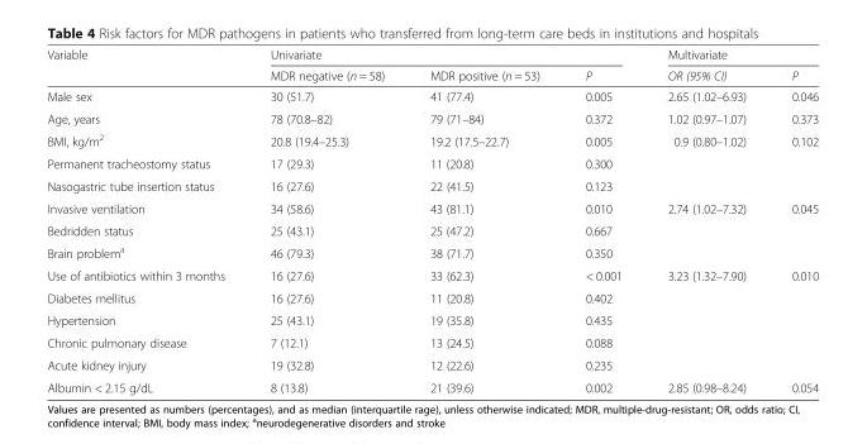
<table><thead><tr><td rowspan="2">Variable</td><td colspan="3">Univariate</td><td colspan="2">Multivariate</td></tr><tr><td>MDR negative (n = 58)</td><td>MDR positive (n = 53)</td><td>P</td><td>OR (95% CI)</td><td>P</td></tr></thead><tbody><tr><td>Male sex</td><td>30 (51.7)</td><td>41 (77.4)</td><td>0.005</td><td>2.65 (1.02–6.93)</td><td>0.046</td></tr><tr><td>Age, years</td><td>78 (70.8–82)</td><td>79 (71–84)</td><td>0.372</td><td>1.02 (0.97–1.07)</td><td>0.373</td></tr><tr><td>BMI, kg/m<sup>2</sup></td><td>20.8 (19.4–25.3)</td><td>19.2 (17.5–22.7)</td><td>0.005</td><td>0.9 (0.80–1.02)</td><td>0.102</td></tr><tr><td>Permanent tracheostomy status</td><td>17 (29.3)</td><td>11 (20.8)</td><td>0.300</td><td></td><td></td></tr><tr><td>Nasogastric tube insertion status</td><td>16 (27.6)</td><td>22 (41.5)</td><td>0.123</td><td></td><td></td></tr><tr><td>Invasive ventilation</td><td>34 (58.6)</td><td>43 (81.1)</td><td>0.010</td><td>2.74 (1.02–7.32)</td><td>0.045</td></tr><tr><td>Bedridden status</td><td>25 (43.1)</td><td>25 (47.2)</td><td>0.667</td><td></td><td></td></tr><tr><td>Brain problem<sup>a</sup></td><td>46 (79.3)</td><td>38 (71.7)</td><td>0.350</td><td></td><td></td></tr><tr><td>Use of antibiotics within 3 months</td><td>16 (27.6)</td><td>33 (62.3)</td><td>&lt; 0.001</td><td>3.23 (1.32–7.90)</td><td>0.010</td></tr><tr><td>Diabetes mellitus</td><td>16 (27.6)</td><td>11 (20.8)</td><td>0.402</td><td></td><td></td></tr><tr><td>Hypertension</td><td>25 (43.1)</td><td>19 (35.8)</td><td>0.435</td><td></td><td></td></tr><tr><td>Chronic pulmonary disease</td><td>7 (12.1)</td><td>13 (24.5)</td><td>0.088</td><td></td><td></td></tr><tr><td>Acute kidney injury</td><td>19 (32.8)</td><td>12 (22.6)</td><td>0.235</td><td></td><td></td></tr><tr><td>Albumin &lt; 2.15 g/dL</td><td>8 (13.8)</td><td>21 (39.6)</td><td>0.002</td><td>2.85 (0.98–8.24)</td><td>0.054</td></tr></tbody></table>